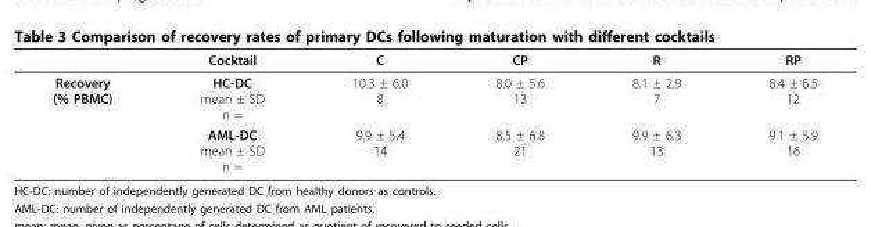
<table><thead><tr><td></td><td>Cocktail</td><td>C</td><td>CP</td><td>R</td><td>RP</td></tr></thead><tbody><tr><td rowspan="2">Recovery (% PBMC)</td><td>HC-DC mean ± SD n =</td><td>10.3 ± 6.0 8</td><td>8.0 ± 5.6 13</td><td>8.1 ± 2.9 7</td><td>8.4 ± 6.5 12</td></tr><tr><td>AML-DC mean ± SD n =</td><td>9.9 ± 5.4 14</td><td>8.5 ± 6.8 21</td><td>9.9 ± 6.3 13</td><td>9.1 ± 5.9 16</td></tr></tbody></table>